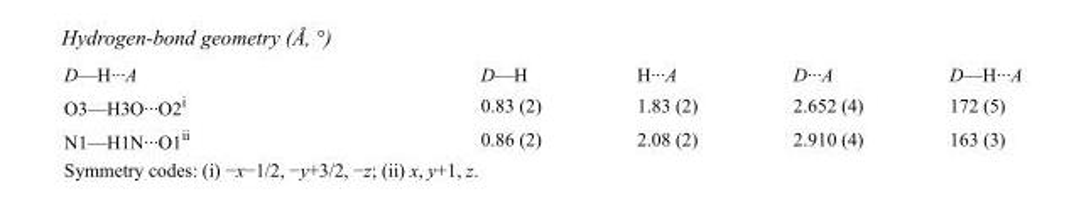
<table><tbody><tr><td>D—H···A</td><td>D—H</td><td>H···A</td><td>D···A</td><td>D—H···A</td></tr><tr><td>O3—H3O···O2<sup>i</sup></td><td>0.83 (2)</td><td>1.83 (2)</td><td>2.652 (4)</td><td>172 (5)</td></tr><tr><td>N1—H1N···O1<sup>ii</sup></td><td>0.86 (2)</td><td>2.08 (2)</td><td>2.910 (4)</td><td>163 (3)</td></tr></tbody></table>